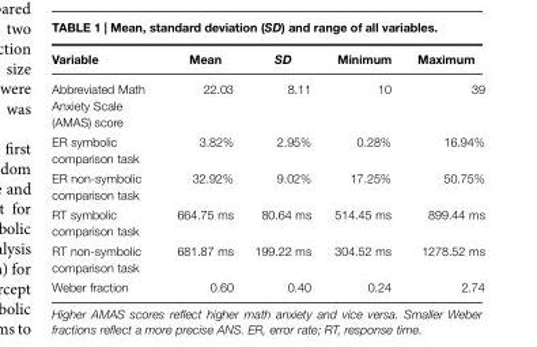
<table><thead><tr><td>Variable</td><td>Mean</td><td>SD</td><td>Minimum</td><td>Maximum</td></tr></thead><tbody><tr><td>Abbreviated Math Anxiety Scale (AMAS) score</td><td>22.03</td><td>8.11</td><td>10</td><td>39</td></tr><tr><td>ER symbolic comparison task</td><td>3.82%</td><td>2.95%</td><td>0.28%</td><td>16.94%</td></tr><tr><td>ER non-symbolic comparison task</td><td>32.92%</td><td>9.02%</td><td>17.25%</td><td>50.75%</td></tr><tr><td>RT symbolic comparison task</td><td>664.75 ms</td><td>80.64 ms</td><td>514.45 ms</td><td>899.44 ms</td></tr><tr><td>RT non-symbolic comparison task</td><td>681.87 ms</td><td>199.22 ms</td><td>304.52 ms</td><td>1278.52 ms</td></tr><tr><td>Weber fraction</td><td>0.60</td><td>0.40</td><td>0.24</td><td>2.74</td></tr></tbody></table>